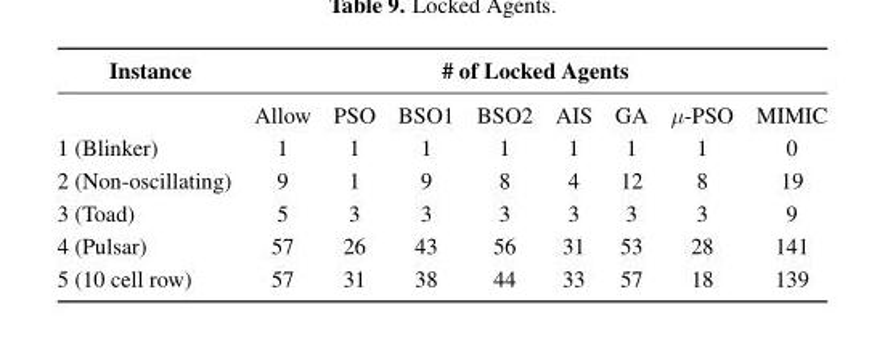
<table><thead><tr><td rowspan="2">Instance</td><td colspan="8"># of Locked Agents</td></tr><tr><td>Allow</td><td>PSO</td><td>BSO1</td><td>BSO2</td><td>AIS</td><td>GA</td><td>µ-PSO</td><td>MIMIC</td></tr></thead><tbody><tr><td>1 (Blinker)</td><td>1</td><td>1</td><td>1</td><td>1</td><td>1</td><td>1</td><td>1</td><td>0</td></tr><tr><td>2 (Non-oscillating)</td><td>9</td><td>1</td><td>9</td><td>8</td><td>4</td><td>12</td><td>8</td><td>19</td></tr><tr><td>3 (Toad)</td><td>5</td><td>3</td><td>3</td><td>3</td><td>3</td><td>3</td><td>3</td><td>9</td></tr><tr><td>4 (Pulsar)</td><td>57</td><td>26</td><td>43</td><td>56</td><td>31</td><td>53</td><td>28</td><td>141</td></tr><tr><td>5 (10 cell row)</td><td>57</td><td>31</td><td>38</td><td>44</td><td>33</td><td>57</td><td>18</td><td>139</td></tr></tbody></table>